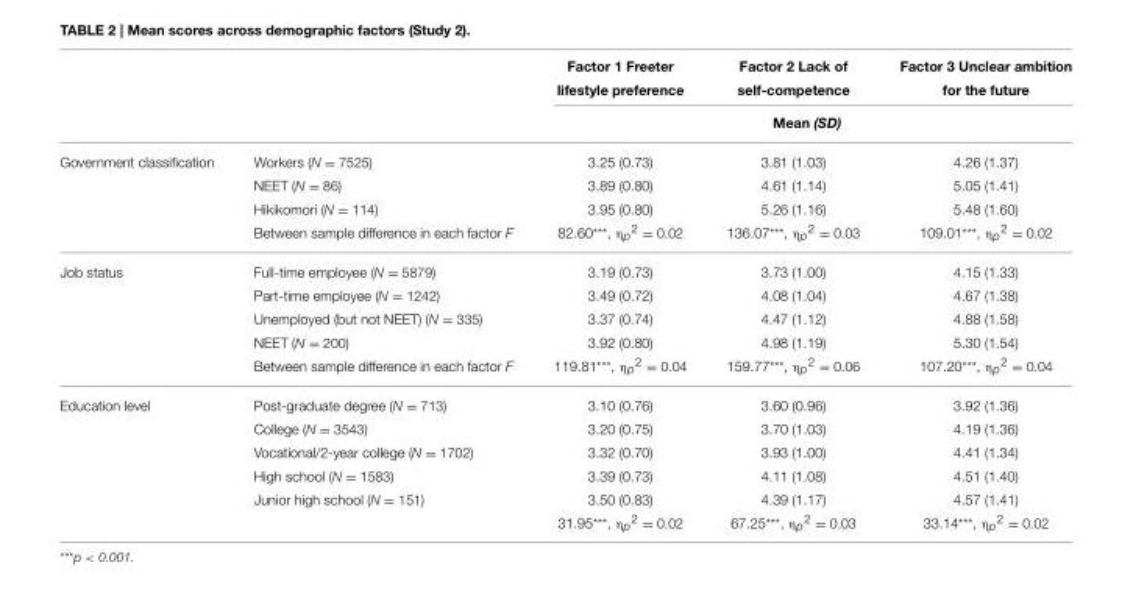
<table><thead><tr><td rowspan="2"></td><td rowspan="2"></td><td>Factor 1 Freeter lifestyle preference</td><td>Factor 2 Lack of self-competence</td><td>Factor 3 Unclear ambition for the future</td></tr><tr><td colspan="3">Mean (SD)</td></tr></thead><tbody><tr><td rowspan="4">Government classification</td><td>Workers (N = 7525)</td><td>3.25 (0.73)</td><td>3.81 (1.03)</td><td>4.26 (1.37)</td></tr><tr><td>NEET (N = 86)</td><td>3.89 (0.80)</td><td>4.61 (1.14)</td><td>5.05 (1.41)</td></tr><tr><td>Hikikomori (N = 114)</td><td>3.95 (0.80)</td><td>5.26 (1.16)</td><td>5.48 (1.60)</td></tr><tr><td>Between sample difference in each factor F</td><td>82.60***, η<sub>p</sub><sup>2</sup> = 0.02</td><td>136.07***, η<sub>p</sub><sup>2</sup> = 0.03</td><td>109.01***, η<sub>p</sub><sup>2</sup> = 0.02</td></tr><tr><td rowspan="5">Job status</td><td>Full-time employee (N = 5879)</td><td>3.19 (0.73)</td><td>3.73 (1.00)</td><td>4.15 (1.33)</td></tr><tr><td>Part-time employee (N = 1242)</td><td>3.49 (0.72)</td><td>4.08 (1.04)</td><td>4.67 (1.38)</td></tr><tr><td>Unemployed (but not NEET) (N = 335)</td><td>3.37 (0.74)</td><td>4.47 (1.12)</td><td>4.88 (1.58)</td></tr><tr><td>NEET (N = 200)</td><td>3.92 (0.80)</td><td>4.98 (1.19)</td><td>5.30 (1.54)</td></tr><tr><td>Between sample difference in each factor F</td><td>119.81***, η<sub>p</sub><sup>2</sup> = 0.04</td><td>159.77***, η<sub>p</sub><sup>2</sup> = 0.06</td><td>107.20***, η<sub>p</sub><sup>2</sup> = 0.04</td></tr><tr><td rowspan="6">Education level</td><td>Post-graduate degree (N = 713)</td><td>3.10 (0.76)</td><td>3.60 (0.96)</td><td>3.92 (1.36)</td></tr><tr><td>College (N = 3543)</td><td>3.20 (0.75)</td><td>3.70 (1.03)</td><td>4.19 (1.36)</td></tr><tr><td>Vocational/2-year college (N = 1702)</td><td>3.32 (0.70)</td><td>3.93 (1.00)</td><td>4.41 (1.34)</td></tr><tr><td>High school (N = 1583)</td><td>3.39 (0.73)</td><td>4.11 (1.08)</td><td>4.51 (1.40)</td></tr><tr><td>Junior high school (N = 151)</td><td>3.50 (0.83)</td><td>4.39 (1.17)</td><td>4.57 (1.41)</td></tr><tr><td></td><td>31.95***, η<sub>p</sub><sup>2</sup> = 0.02</td><td>67.25***, η<sub>p</sub><sup>2</sup> = 0.03</td><td>33.14***, η<sub>p</sub><sup>2</sup> = 0.02</td></tr></tbody></table>